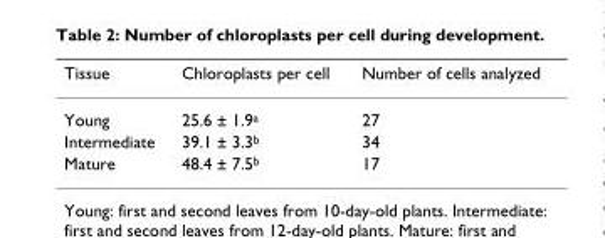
<table><thead><tr><td>Tissue</td><td>Chloroplasts per cell</td><td>Number of cells analyzed</td></tr></thead><tbody><tr><td>Young</td><td>25.6 ± 1.9<sup>a</sup></td><td>27</td></tr><tr><td>Intermediate</td><td>39.1 ± 3.3<sup>b</sup></td><td>34</td></tr><tr><td>Mature</td><td>48.4 ± 7.5<sup>b</sup></td><td>17</td></tr></tbody></table>